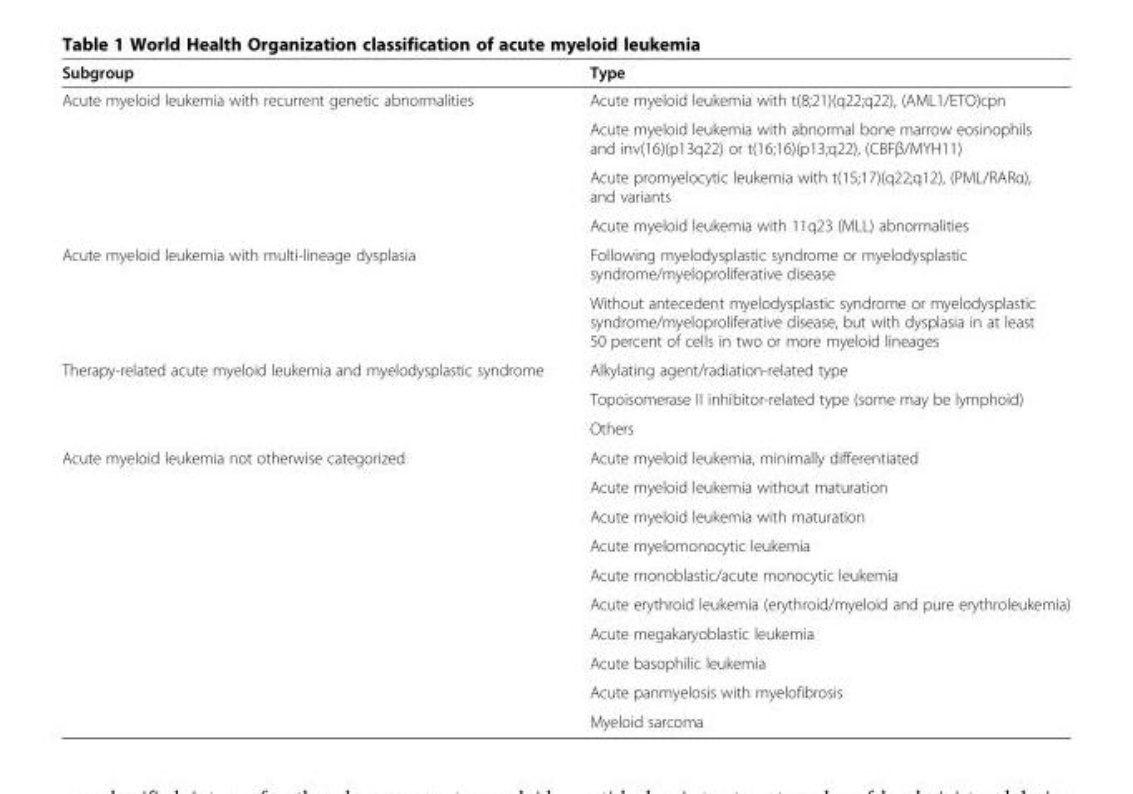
<table><thead><tr><td>Subgroup</td><td>Type</td></tr></thead><tbody><tr><td rowspan="4">Acute myeloid leukemia with recurrent genetic abnormalities</td><td>Acute myeloid leukemia with t(8;21)(q22;q22), (AML1/ETO)cpn</td></tr><tr><td>Acute myeloid leukemia with abnormal bone marrow eosinophils and inv(16)(p13q22) or t(16;16)(p13;q22), (CBFβ/MYH11)</td></tr><tr><td>Acute promyelocytic leukemia with t(15;17)(q22;q12), (PML/RARα), and variants</td></tr><tr><td>Acute myeloid leukemia with 11q23 (MLL) abnormalities</td></tr><tr><td rowspan="2">Acute myeloid leukemia with multi-lineage dysplasia</td><td>Following myelodysplastic syndrome or myelodysplastic syndrome/myeloproliferative disease</td></tr><tr><td>Without antecedent myelodysplastic syndrome or myelodysplastic syndrome/myeloproliferative disease, but with dysplasia in at least 50 percent of cells in two or more myeloid lineages</td></tr><tr><td rowspan="3">Therapy-related acute myeloid leukemia and myelodysplastic syndrome</td><td>Alkylating agent/radiation-related type</td></tr><tr><td>Topoisomerase II inhibitor-related type (some may be lymphoid)</td></tr><tr><td>Others</td></tr><tr><td rowspan="10">Acute myeloid leukemia not otherwise categorized</td><td>Acute myeloid leukemia, minimally differentiated</td></tr><tr><td>Acute myeloid leukemia without maturation</td></tr><tr><td>Acute myeloid leukemia with maturation</td></tr><tr><td>Acute myelomonocytic leukemia</td></tr><tr><td>Acute monoblastic/acute monocytic leukemia</td></tr><tr><td>Acute erythroid leukemia (erythroid/myeloid and pure erythroleukemia)</td></tr><tr><td>Acute megakaryoblastic leukemia</td></tr><tr><td>Acute basophilic leukemia</td></tr><tr><td>Acute panmyelosis with myelofibrosis</td></tr><tr><td>Myeloid sarcoma</td></tr></tbody></table>